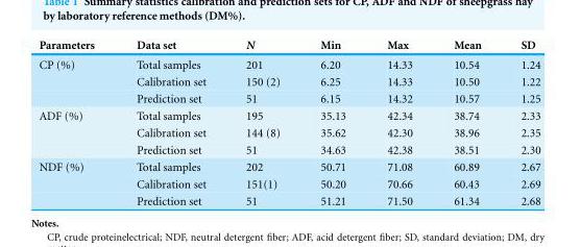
<table><thead><tr><td>Parameters</td><td>Data set</td><td>N</td><td>Min</td><td>Max</td><td>Mean</td><td>SD</td></tr></thead><tbody><tr><td rowspan="3">CP (%)</td><td>Total samples</td><td>201</td><td>6.20</td><td>14.33</td><td>10.54</td><td>1.24</td></tr><tr><td>Calibration set</td><td>150 (2)</td><td>6.25</td><td>14.33</td><td>10.50</td><td>1.22</td></tr><tr><td>Prediction set</td><td>51</td><td>6.15</td><td>14.32</td><td>10.57</td><td>1.25</td></tr><tr><td rowspan="3">ADF (%)</td><td>Total samples</td><td>195</td><td>35.13</td><td>42.34</td><td>38.74</td><td>2.33</td></tr><tr><td>Calibration set</td><td>144 (8)</td><td>35.62</td><td>42.30</td><td>38.96</td><td>2.35</td></tr><tr><td>Prediction set</td><td>51</td><td>34.63</td><td>42.38</td><td>38.51</td><td>2.30</td></tr><tr><td rowspan="3">NDF (%)</td><td>Total samples</td><td>202</td><td>50.71</td><td>71.08</td><td>60.89</td><td>2.67</td></tr><tr><td>Calibration set</td><td>151(1)</td><td>50.20</td><td>70.66</td><td>60.43</td><td>2.69</td></tr><tr><td>Prediction set</td><td>51</td><td>51.21</td><td>71.50</td><td>61.34</td><td>2.68</td></tr></tbody></table>